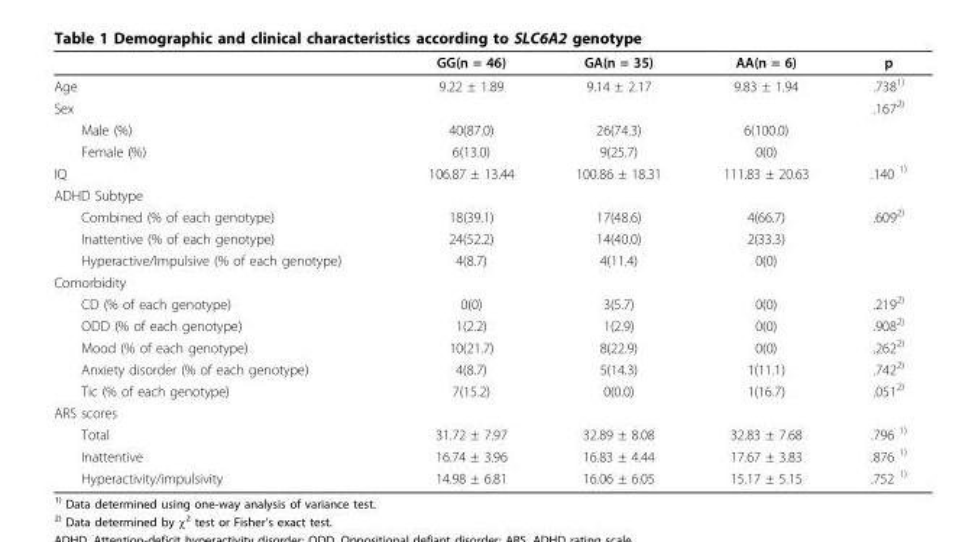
<table><thead><tr><td></td><td>GG(n = 46)</td><td>GA(n = 35)</td><td>AA(n = 6)</td><td>p</td></tr></thead><tbody><tr><td>Age</td><td>9.22 ± 1.89</td><td>9.14 ± 2.17</td><td>9.83 ± 1.94</td><td>.738<sup>1)</sup></td></tr><tr><td>Sex</td><td></td><td></td><td></td><td>.167<sup>2)</sup></td></tr><tr><td>Male (%)</td><td>40(87.0)</td><td>26(74.3)</td><td>6(100.0)</td><td></td></tr><tr><td>Female (%)</td><td>6(13.0)</td><td>9(25.7)</td><td>0(0)</td><td></td></tr><tr><td>IQ</td><td>106.87 ± 13.44</td><td>100.86 ± 18.31</td><td>111.83 ± 20.63</td><td>.140 <sup>1)</sup></td></tr><tr><td colspan="5">ADHD Subtype</td></tr><tr><td>Combined (% of each genotype)</td><td>18(39.1)</td><td>17(48.6)</td><td>4(66.7)</td><td>.609<sup>2)</sup></td></tr><tr><td>Inattentive (% of each genotype)</td><td>24(52.2)</td><td>14(40.0)</td><td>2(33.3)</td><td></td></tr><tr><td>Hyperactive/Impulsive (% of each genotype)</td><td>4(8.7)</td><td>4(11.4)</td><td>0(0)</td><td></td></tr><tr><td colspan="5">Comorbidity</td></tr><tr><td>CD (% of each genotype)</td><td>0(0)</td><td>3(5.7)</td><td>0(0)</td><td>.219<sup>2)</sup></td></tr><tr><td>ODD (% of each genotype)</td><td>1(2.2)</td><td>1(2.9)</td><td>0(0)</td><td>.908<sup>2)</sup></td></tr><tr><td>Mood (% of each genotype)</td><td>10(21.7)</td><td>8(22.9)</td><td>0(0)</td><td>.262<sup>2)</sup></td></tr><tr><td>Anxiety disorder (% of each genotype)</td><td>4(8.7)</td><td>5(14.3)</td><td>1(11.1)</td><td>.742<sup>2)</sup></td></tr><tr><td>Tic (% of each genotype)</td><td>7(15.2)</td><td>0(0.0)</td><td>1(16.7)</td><td>.051<sup>2)</sup></td></tr><tr><td colspan="5">ARS scores</td></tr><tr><td>Total</td><td>31.72 ± 7.97</td><td>32.89 ± 8.08</td><td>32.83 ± 7.68</td><td>.796 <sup>1)</sup></td></tr><tr><td>Inattentive</td><td>16.74 ± 3.96</td><td>16.83 ± 4.44</td><td>17.67 ± 3.83</td><td>.876 <sup>1)</sup></td></tr><tr><td>Hyperactivity/impulsivity</td><td>14.98 ± 6.81</td><td>16.06 ± 6.05</td><td>15.17 ± 5.15</td><td>.752 <sup>1)</sup></td></tr></tbody></table>